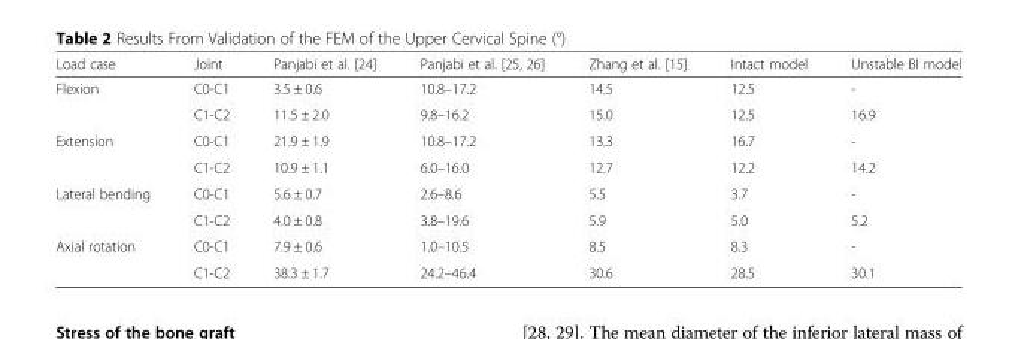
<table><thead><tr><td>Load case</td><td>Joint</td><td>Panjabi et al. [24]</td><td>Panjabi et al. [25, 26]</td><td>Zhang et al. [15]</td><td>Intact model</td><td>Unstable BI model</td></tr></thead><tbody><tr><td rowspan="2">Flexion</td><td>C0-C1</td><td>3.5 ± 0.6</td><td>10.8–17.2</td><td>14.5</td><td>12.5</td><td>-</td></tr><tr><td>C1-C2</td><td>11.5 ± 2.0</td><td>9.8–16.2</td><td>15.0</td><td>12.5</td><td>16.9</td></tr><tr><td rowspan="2">Extension</td><td>C0-C1</td><td>21.9 ± 1.9</td><td>10.8–17.2</td><td>13.3</td><td>16.7</td><td>-</td></tr><tr><td>C1-C2</td><td>10.9 ± 1.1</td><td>6.0–16.0</td><td>12.7</td><td>12.2</td><td>14.2</td></tr><tr><td rowspan="2">Lateral bending</td><td>C0-C1</td><td>5.6 ± 0.7</td><td>2.6–8.6</td><td>5.5</td><td>3.7</td><td>-</td></tr><tr><td>C1-C2</td><td>4.0 ± 0.8</td><td>3.8–19.6</td><td>5.9</td><td>5.0</td><td>5.2</td></tr><tr><td rowspan="2">Axial rotation</td><td>C0-C1</td><td>7.9 ± 0.6</td><td>1.0–10.5</td><td>8.5</td><td>8.3</td><td>-</td></tr><tr><td>C1-C2</td><td>38.3 ± 1.7</td><td>24.2–46.4</td><td>30.6</td><td>28.5</td><td>30.1</td></tr></tbody></table>